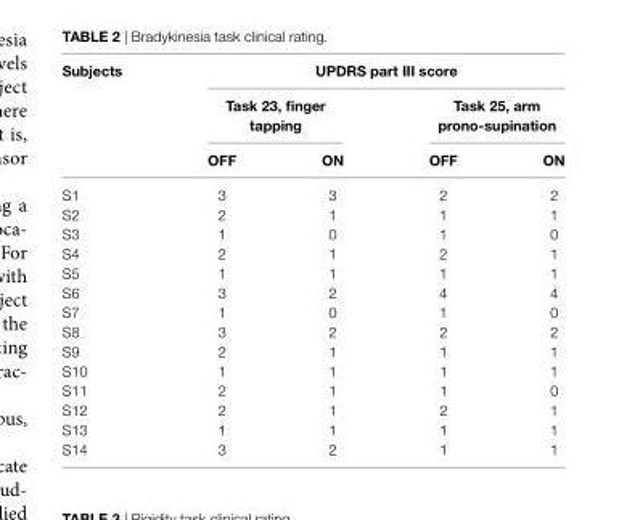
<table><thead><tr><td rowspan="3">subjects</td><td colspan="4">UPDrs part iii score</td></tr><tr><td colspan="2">Task 23, finger tapping</td><td colspan="2">Task 25, arm prono-supination</td></tr><tr><td>OFF</td><td>On</td><td>OFF</td><td>On</td></tr></thead><tbody><tr><td>S1</td><td>3</td><td>3</td><td>2</td><td>2</td></tr><tr><td>S2</td><td>2</td><td>1</td><td>1</td><td>1</td></tr><tr><td>S3</td><td>1</td><td>0</td><td>1</td><td>0</td></tr><tr><td>S4</td><td>2</td><td>1</td><td>2</td><td>1</td></tr><tr><td>S5</td><td>1</td><td>1</td><td>1</td><td>1</td></tr><tr><td>S6</td><td>3</td><td>2</td><td>4</td><td>4</td></tr><tr><td>S7</td><td>1</td><td>0</td><td>1</td><td>0</td></tr><tr><td>S8</td><td>3</td><td>2</td><td>2</td><td>2</td></tr><tr><td>S9</td><td>2</td><td>1</td><td>1</td><td>1</td></tr><tr><td>S10</td><td>1</td><td>1</td><td>1</td><td>1</td></tr><tr><td>S11</td><td>2</td><td>1</td><td>1</td><td>0</td></tr><tr><td>S12</td><td>2</td><td>1</td><td>2</td><td>1</td></tr><tr><td>S13</td><td>1</td><td>1</td><td>1</td><td>1</td></tr><tr><td>S14</td><td>3</td><td>2</td><td>1</td><td>1</td></tr></tbody></table>